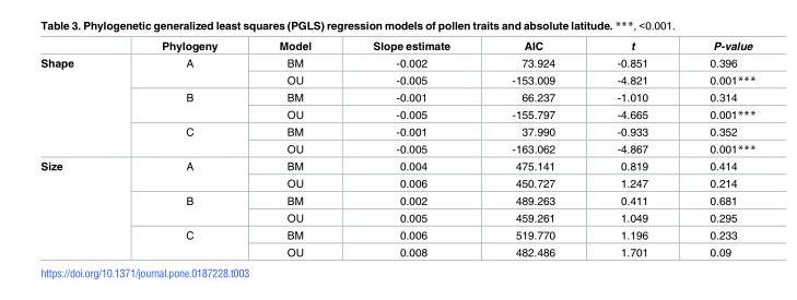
<table><thead><tr><td></td><td>Phylogeny</td><td>Model</td><td>Slope estimate</td><td>AIC</td><td>t</td><td>P-value</td></tr></thead><tbody><tr><td rowspan="6">Shape</td><td rowspan="2">A</td><td>BM</td><td>-0.002</td><td>73.924</td><td>-0.851</td><td>0.396</td></tr><tr><td>OU</td><td>-0.005</td><td>-153.009</td><td>-4.821</td><td>0.001***</td></tr><tr><td rowspan="2">B</td><td>BM</td><td>-0.001</td><td>66.237</td><td>-1.010</td><td>0.314</td></tr><tr><td>OU</td><td>-0.005</td><td>-155.797</td><td>-4.665</td><td>0.001***</td></tr><tr><td rowspan="2">C</td><td>BM</td><td>-0.001</td><td>37.990</td><td>-0.933</td><td>0.352</td></tr><tr><td>OU</td><td>-0.005</td><td>-163.062</td><td>-4.867</td><td>0.001***</td></tr><tr><td rowspan="6">Size</td><td rowspan="2">A</td><td>BM</td><td>0.004</td><td>475.141</td><td>0.819</td><td>0.414</td></tr><tr><td>OU</td><td>0.006</td><td>450.727</td><td>1.247</td><td>0.214</td></tr><tr><td rowspan="2">B</td><td>BM</td><td>0.002</td><td>489.263</td><td>0.411</td><td>0.681</td></tr><tr><td>OU</td><td>0.005</td><td>459.261</td><td>1.049</td><td>0.295</td></tr><tr><td rowspan="2">C</td><td>BM</td><td>0.006</td><td>519.770</td><td>1.196</td><td>0.233</td></tr><tr><td>OU</td><td>0.008</td><td>482.486</td><td>1.701</td><td>0.09</td></tr></tbody></table>